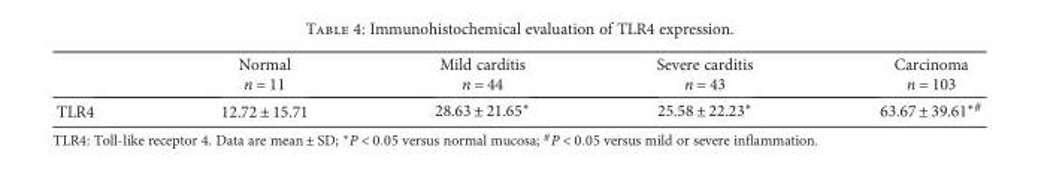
<table><thead><tr><td></td><td>Normal n = 11</td><td>Mild carditis n = 44</td><td>Severe carditis n = 43</td><td>Carcinoma n = 103</td></tr></thead><tbody><tr><td>TLR4</td><td>12.72 ± 15.71</td><td>28.63 ± 21.65∗</td><td>25.58 ± 22.23∗</td><td>63.67 ± 39.61<sup>∗#</sup></td></tr></tbody></table>